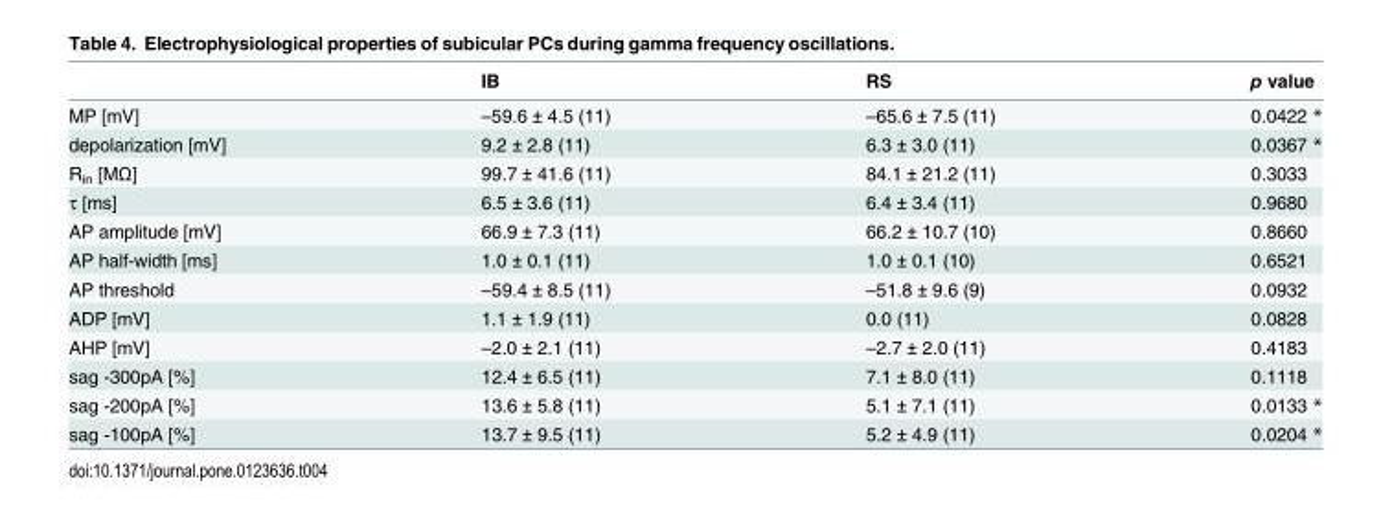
<table><thead><tr><td></td><td>IB</td><td>RS</td><td>p value</td></tr></thead><tbody><tr><td>MP [mV]</td><td>–59.6 ± 4.5 (11)</td><td>–65.6 ± 7.5 (11)</td><td>0.0422 *</td></tr><tr><td>depolarization [mV]</td><td>9.2 ± 2.8 (11)</td><td>6.3 ± 3.0 (11)</td><td>0.0367 *</td></tr><tr><td>R<sub>in</sub> [MΩ]</td><td>99.7 ± 41.6 (11)</td><td>84.1 ± 21.2 (11)</td><td>0.3033</td></tr><tr><td>τ [ms]</td><td>6.5 ± 3.6 (11)</td><td>6.4 ± 3.4 (11)</td><td>0.9680</td></tr><tr><td>AP amplitude [mV]</td><td>66.9 ± 7.3 (11)</td><td>66.2 ± 10.7 (10)</td><td>0.8660</td></tr><tr><td>AP half-width [ms]</td><td>1.0 ± 0.1 (11)</td><td>1.0 ± 0.1 (10)</td><td>0.6521</td></tr><tr><td>AP threshold</td><td>–59.4 ± 8.5 (11)</td><td>–51.8 ± 9.6 (9)</td><td>0.0932</td></tr><tr><td>ADP [mV]</td><td>1.1 ± 1.9 (11)</td><td>0.0 (11)</td><td>0.0828</td></tr><tr><td>AHP [mV]</td><td>–2.0 ± 2.1 (11)</td><td>–2.7 ± 2.0 (11)</td><td>0.4183</td></tr><tr><td>sag -300pA [%]</td><td>12.4 ± 6.5 (11)</td><td>7.1 ± 8.0 (11)</td><td>0.1118</td></tr><tr><td>sag -200pA [%]</td><td>13.6 ± 5.8 (11)</td><td>5.1 ± 7.1 (11)</td><td>0.0133 *</td></tr><tr><td>sag -100pA [%]</td><td>13.7 ± 9.5 (11)</td><td>5.2 ± 4.9 (11)</td><td>0.0204 *</td></tr></tbody></table>